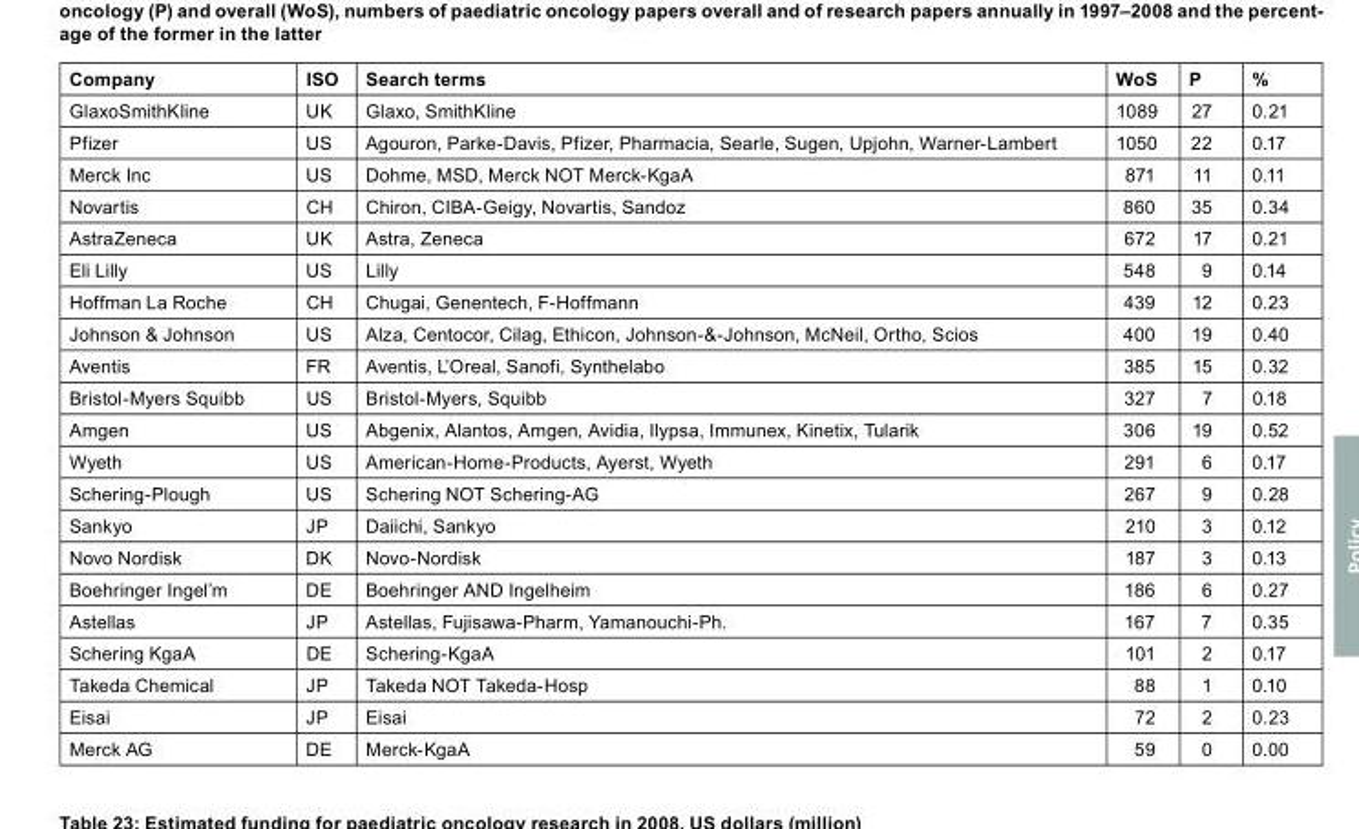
<table><thead><tr><td>Company</td><td>ISO</td><td>Search terms</td><td>WoS</td><td>P</td><td>%</td></tr></thead><tbody><tr><td>GlaxoSmithKline</td><td>UK</td><td>Glaxo, SmithKline</td><td>1089</td><td>27</td><td>0.21</td></tr><tr><td>Pfizer</td><td>US</td><td>Agouron, Parke-Davis, Pfizer, Pharmacia, Searle, Sugen, Upjohn, Warner-Lambert</td><td>1050</td><td>22</td><td>0.17</td></tr><tr><td>Merck Inc</td><td>US</td><td>Dohme, MSD, Merck NOT Merck-KgaA</td><td>871</td><td>11</td><td>0.11</td></tr><tr><td>Novartis</td><td>CH</td><td>Chiron, CIBA-Geigy, Novartis, Sandoz</td><td>860</td><td>35</td><td>0.34</td></tr><tr><td>AstraZeneca</td><td>UK</td><td>Astra, Zeneca</td><td>672</td><td>17</td><td>0.21</td></tr><tr><td>Eli Lilly</td><td>US</td><td>Lilly</td><td>548</td><td>9</td><td>0.14</td></tr><tr><td>Hoffman La Roche</td><td>CH</td><td>Chugai, Genentech, F-Hoffmann</td><td>439</td><td>12</td><td>0.23</td></tr><tr><td>Johnson &amp; Johnson</td><td>US</td><td>Alza, Centocor, Cilag, Ethicon, Johnson-&amp;-Johnson, McNeil, Ortho, Scios</td><td>400</td><td>19</td><td>0.40</td></tr><tr><td>Aventis</td><td>FR</td><td>Aventis, L’Oreal, Sanofi, Synthelabo</td><td>385</td><td>15</td><td>0.32</td></tr><tr><td>Bristol-Myers Squibb</td><td>US</td><td>Bristol-Myers, Squibb</td><td>327</td><td>7</td><td>0.18</td></tr><tr><td>Amgen</td><td>US</td><td>Abgenix, Alantos, Amgen, Avidia, Ilypsa, Immunex, Kinetix, Tularik</td><td>306</td><td>19</td><td>0.52</td></tr><tr><td>Wyeth</td><td>US</td><td>American-Home-Products, Ayerst, Wyeth</td><td>291</td><td>6</td><td>0.17</td></tr><tr><td>Schering-Plough</td><td>US</td><td>Schering NOT Schering-AG</td><td>267</td><td>9</td><td>0.28</td></tr><tr><td>Sankyo</td><td>JP</td><td>Daiichi, Sankyo</td><td>210</td><td>3</td><td>0.12</td></tr><tr><td>Novo Nordisk</td><td>DK</td><td>Novo-Nordisk</td><td>187</td><td>3</td><td>0.13</td></tr><tr><td>Boehringer Ingel’m</td><td>DE</td><td>Boehringer AND Ingelheim</td><td>186</td><td>6</td><td>0.27</td></tr><tr><td>Astellas</td><td>JP</td><td>Astellas, Fujisawa-Pharm, Yamanouchi-Ph.</td><td>167</td><td>7</td><td>0.35</td></tr><tr><td>Schering KgaA</td><td>DE</td><td>Schering-KgaA</td><td>101</td><td>2</td><td>0.17</td></tr><tr><td>Takeda Chemical</td><td>JP</td><td>Takeda NOT Takeda-Hosp</td><td>88</td><td>1</td><td>0.10</td></tr><tr><td>Eisai</td><td>JP</td><td>Eisai</td><td>72</td><td>2</td><td>0.23</td></tr><tr><td>Merck AG</td><td>DE</td><td>Merck-KgaA</td><td>59</td><td>0</td><td>0.00</td></tr></tbody></table>